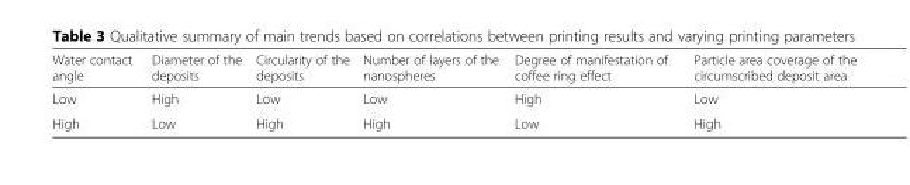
<table><thead><tr><td>Water contact angle</td><td>Diameter of the deposits</td><td>Circularity of the deposits</td><td>Number of layers of the nanospheres</td><td>Degree of manifestation of coffee ring effect</td><td>Particle area coverage of the circumscribed deposit area</td></tr></thead><tbody><tr><td>Low</td><td>High</td><td>Low</td><td>Low</td><td>High</td><td>Low</td></tr><tr><td>High</td><td>Low</td><td>High</td><td>High</td><td>Low</td><td>High</td></tr></tbody></table>